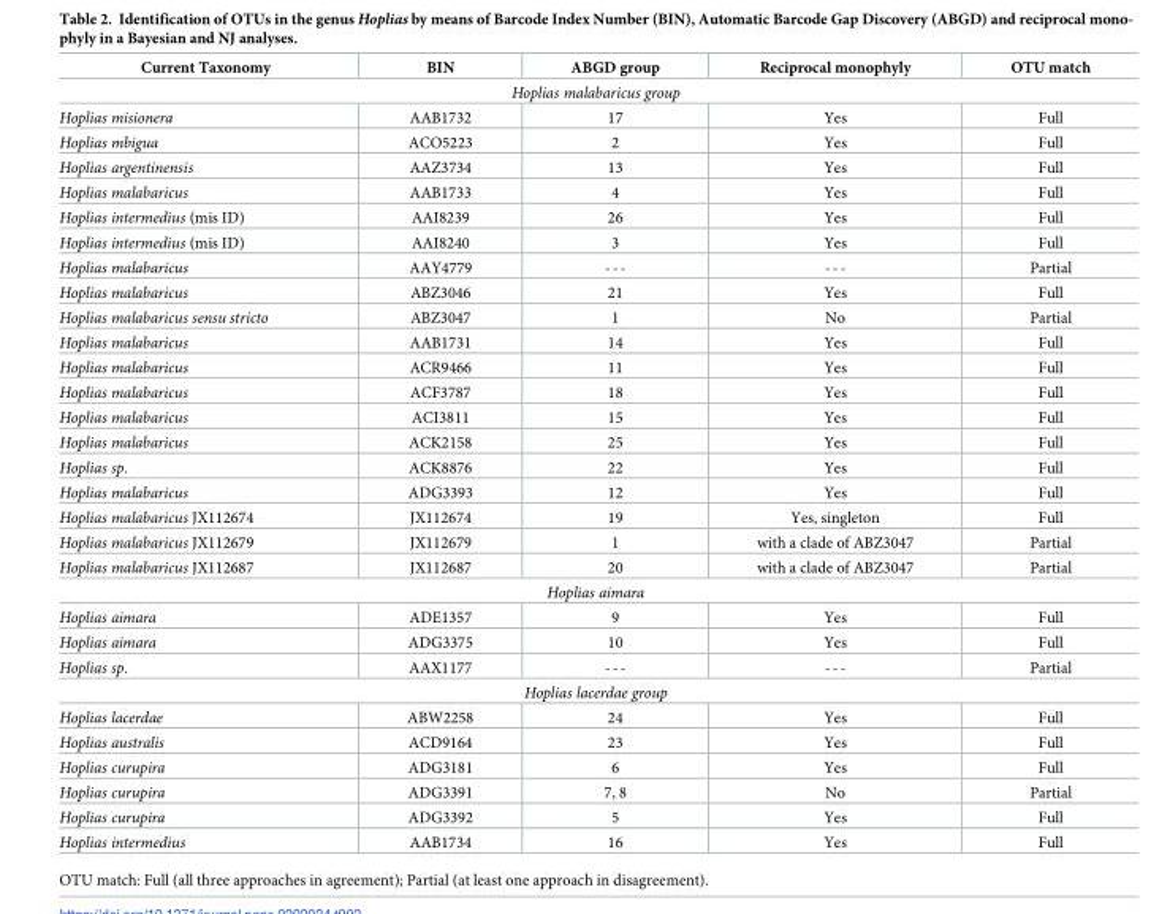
<table><thead><tr><td>Current Taxonomy</td><td>BIN</td><td>ABGD group</td><td>Reciprocal monophyly</td><td>OTU match</td></tr></thead><tbody><tr><td colspan="5">Hoplias malabaricus group</td></tr><tr><td>Hoplias misionera</td><td>AAB1732</td><td>17</td><td>Yes</td><td>Full</td></tr><tr><td>Hoplias mbigua</td><td>ACO5223</td><td>2</td><td>Yes</td><td>Full</td></tr><tr><td>Hoplias argentinensis</td><td>AAZ3734</td><td>13</td><td>Yes</td><td>Full</td></tr><tr><td>Hoplias malabaricus</td><td>AAB1733</td><td>4</td><td>Yes</td><td>Full</td></tr><tr><td>Hoplias intermedius (mis ID)</td><td>AAI8239</td><td>26</td><td>Yes</td><td>Full</td></tr><tr><td>Hoplias intermedius (mis ID)</td><td>AAI8240</td><td>3</td><td>Yes</td><td>Full</td></tr><tr><td>Hoplias malabaricus</td><td>AAY4779</td><td>---</td><td>---</td><td>Partial</td></tr><tr><td>Hoplias malabaricus</td><td>ABZ3046</td><td>21</td><td>Yes</td><td>Full</td></tr><tr><td>Hoplias malabaricus sensu stricto</td><td>ABZ3047</td><td>1</td><td>No</td><td>Partial</td></tr><tr><td>Hoplias malabaricus</td><td>AAB1731</td><td>14</td><td>Yes</td><td>Full</td></tr><tr><td>Hoplias malabaricus</td><td>ACR9466</td><td>11</td><td>Yes</td><td>Full</td></tr><tr><td>Hoplias malabaricus</td><td>ACF3787</td><td>18</td><td>Yes</td><td>Full</td></tr><tr><td>Hoplias malabaricus</td><td>ACI3811</td><td>15</td><td>Yes</td><td>Full</td></tr><tr><td>Hoplias malabaricus</td><td>ACK2158</td><td>25</td><td>Yes</td><td>Full</td></tr><tr><td>Hoplias sp.</td><td>ACK8876</td><td>22</td><td>Yes</td><td>Full</td></tr><tr><td>Hoplias malabaricus</td><td>ADG3393</td><td>12</td><td>Yes</td><td>Full</td></tr><tr><td>Hoplias malabaricus JX112674</td><td>JX112674</td><td>19</td><td>Yes, singleton</td><td>Full</td></tr><tr><td>Hoplias malabaricus JX112679</td><td>JX112679</td><td>1</td><td>with a clade of ABZ3047</td><td>Partial</td></tr><tr><td>Hoplias malabaricus JX112687</td><td>JX112687</td><td>20</td><td>with a clade of ABZ3047</td><td>Partial</td></tr><tr><td colspan="5">Hoplias aimara</td></tr><tr><td>Hoplias aimara</td><td>ADE1357</td><td>9</td><td>Yes</td><td>Full</td></tr><tr><td>Hoplias aimara</td><td>ADG3375</td><td>10</td><td>Yes</td><td>Full</td></tr><tr><td>Hoplias sp.</td><td>AAX1177</td><td>---</td><td>---</td><td>Partial</td></tr><tr><td colspan="5">Hoplias lacerdae group</td></tr><tr><td>Hoplias lacerdae</td><td>ABW2258</td><td>24</td><td>Yes</td><td>Full</td></tr><tr><td>Hoplias australis</td><td>ACD9164</td><td>23</td><td>Yes</td><td>Full</td></tr><tr><td>Hoplias curupira</td><td>ADG3181</td><td>6</td><td>Yes</td><td>Full</td></tr><tr><td>Hoplias curupira</td><td>ADG3391</td><td>7, 8</td><td>No</td><td>Partial</td></tr><tr><td>Hoplias curupira</td><td>ADG3392</td><td>5</td><td>Yes</td><td>Full</td></tr><tr><td>Hoplias intermedius</td><td>AAB1734</td><td>16</td><td>Yes</td><td>Full</td></tr></tbody></table>